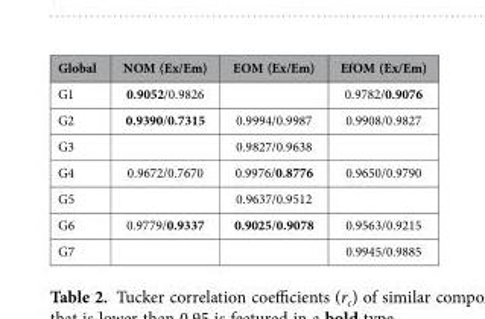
<table><thead><tr><td>Global</td><td>NOM (Ex/Em)</td><td>EOM (Ex/Em)</td><td>EfOM (Ex/Em)</td></tr></thead><tbody><tr><td>G1</td><td>0.9052/0.9826</td><td></td><td>0.9782/0.9076</td></tr><tr><td>G2</td><td>0.9390/0.7315</td><td>0.9994/0.9987</td><td>0.9908/0.9827</td></tr><tr><td>G3</td><td></td><td>0.9827/0.9638</td><td></td></tr><tr><td>G4</td><td>0.9672/0.7670</td><td>0.9976/0.8776</td><td>0.9650/0.9790</td></tr><tr><td>G5</td><td></td><td>0.9637/0.9512</td><td></td></tr><tr><td>G6</td><td>0.9779/0.9337</td><td>0.9025/0.9078</td><td>0.9563/0.9215</td></tr><tr><td>G7</td><td></td><td></td><td>0.9945/0.9885</td></tr></tbody></table>